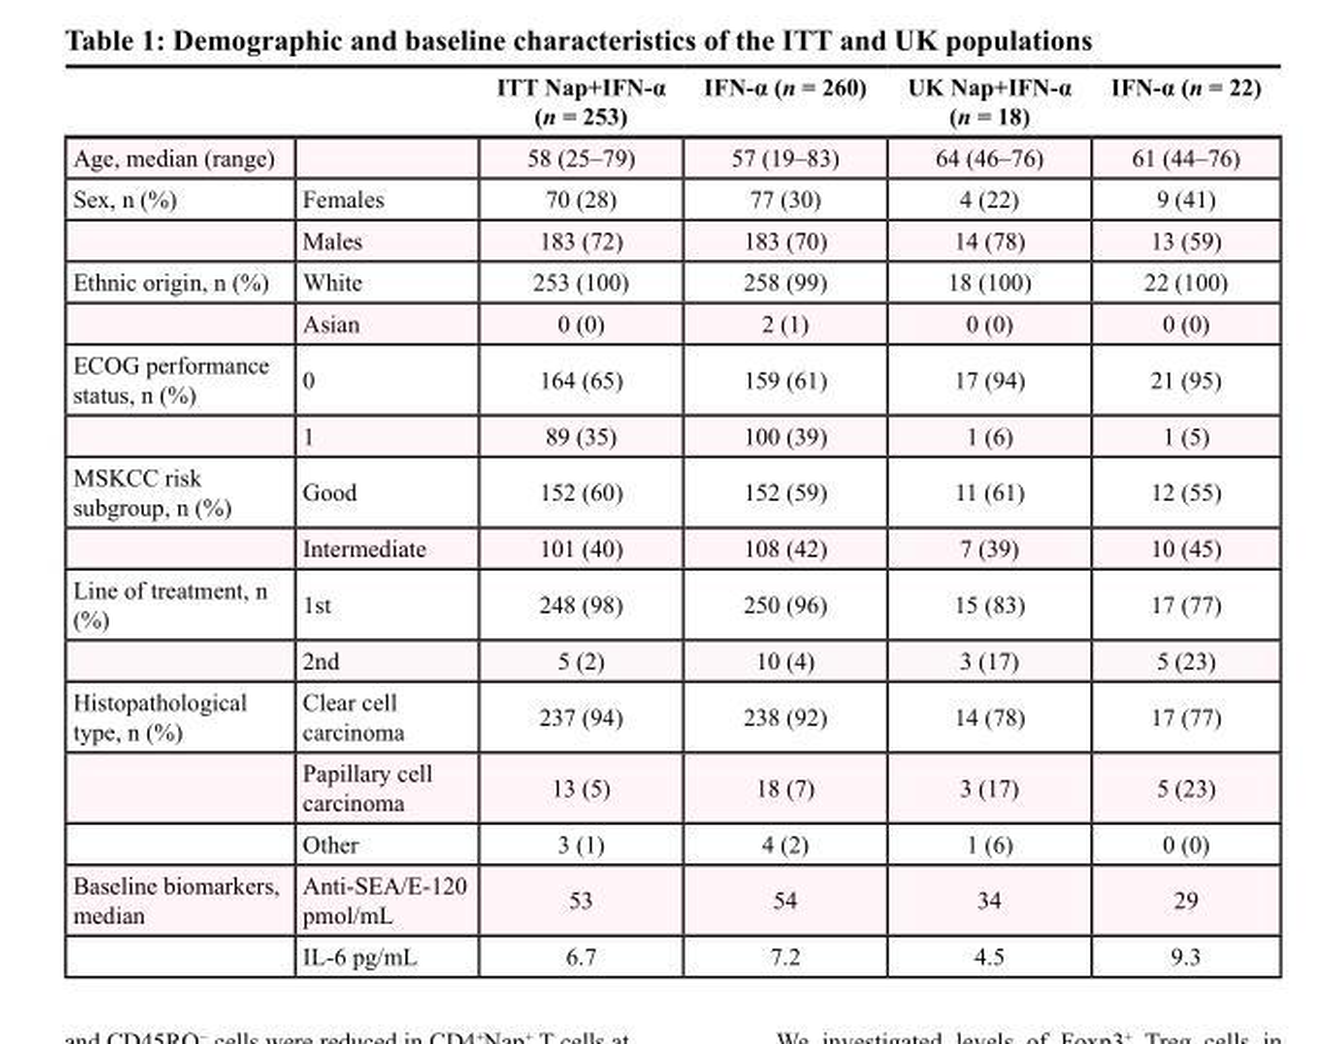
<table><thead><tr><td></td><td></td><td>ITT Nap+IFN-α (n = 253)</td><td>IFN-α (n = 260)</td><td>UK Nap+IFN-α (n = 18)</td><td>IFN-α (n = 22)</td></tr></thead><tbody><tr><td>Age, median (range)</td><td></td><td>58 (25–79)</td><td>57 (19–83)</td><td>64 (46–76)</td><td>61 (44–76)</td></tr><tr><td rowspan="2">Sex, n (%)</td><td>Females</td><td>70 (28)</td><td>77 (30)</td><td>4 (22)</td><td>9 (41)</td></tr><tr><td>Males</td><td>183 (72)</td><td>183 (70)</td><td>14 (78)</td><td>13 (59)</td></tr><tr><td rowspan="2">Ethnic origin, n (%)</td><td>White</td><td>253 (100)</td><td>258 (99)</td><td>18 (100)</td><td>22 (100)</td></tr><tr><td>Asian</td><td>0 (0)</td><td>2 (1)</td><td>0 (0)</td><td>0 (0)</td></tr><tr><td rowspan="2">ECOG performance status, n (%)</td><td>0</td><td>164 (65)</td><td>159 (61)</td><td>17 (94)</td><td>21 (95)</td></tr><tr><td>1</td><td>89 (35)</td><td>100 (39)</td><td>1 (6)</td><td>1 (5)</td></tr><tr><td rowspan="2">MSKCC risk subgroup, n (%)</td><td>Good</td><td>152 (60)</td><td>152 (59)</td><td>11 (61)</td><td>12 (55)</td></tr><tr><td>Intermediate</td><td>101 (40)</td><td>108 (42)</td><td>7 (39)</td><td>10 (45)</td></tr><tr><td rowspan="2">Line of treatment, n (%)</td><td>1st</td><td>248 (98)</td><td>250 (96)</td><td>15 (83)</td><td>17 (77)</td></tr><tr><td>2nd</td><td>5 (2)</td><td>10 (4)</td><td>3 (17)</td><td>5 (23)</td></tr><tr><td rowspan="3">Histopathological type, n (%)</td><td>Clear cell carcinoma</td><td>237 (94)</td><td>238 (92)</td><td>14 (78)</td><td>17 (77)</td></tr><tr><td>Papillary cell carcinoma</td><td>13 (5)</td><td>18 (7)</td><td>3 (17)</td><td>5 (23)</td></tr><tr><td>Other</td><td>3 (1)</td><td>4 (2)</td><td>1 (6)</td><td>0 (0)</td></tr><tr><td rowspan="2">Baseline biomarkers, median</td><td>Anti-SEA/E-120 pmol/mL</td><td>53</td><td>54</td><td>34</td><td>29</td></tr><tr><td>IL-6 pg/mL</td><td>6.7</td><td>7.2</td><td>4.5</td><td>9.3</td></tr></tbody></table>